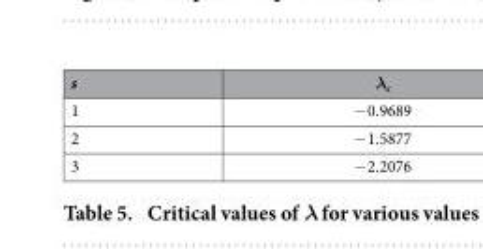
<table><thead><tr><td>s</td><td>λ<sub>c</sub></td></tr></thead><tbody><tr><td>1</td><td>− 0.9689</td></tr><tr><td>2</td><td>− 1.5877</td></tr><tr><td>3</td><td>− 2.2076</td></tr></tbody></table>